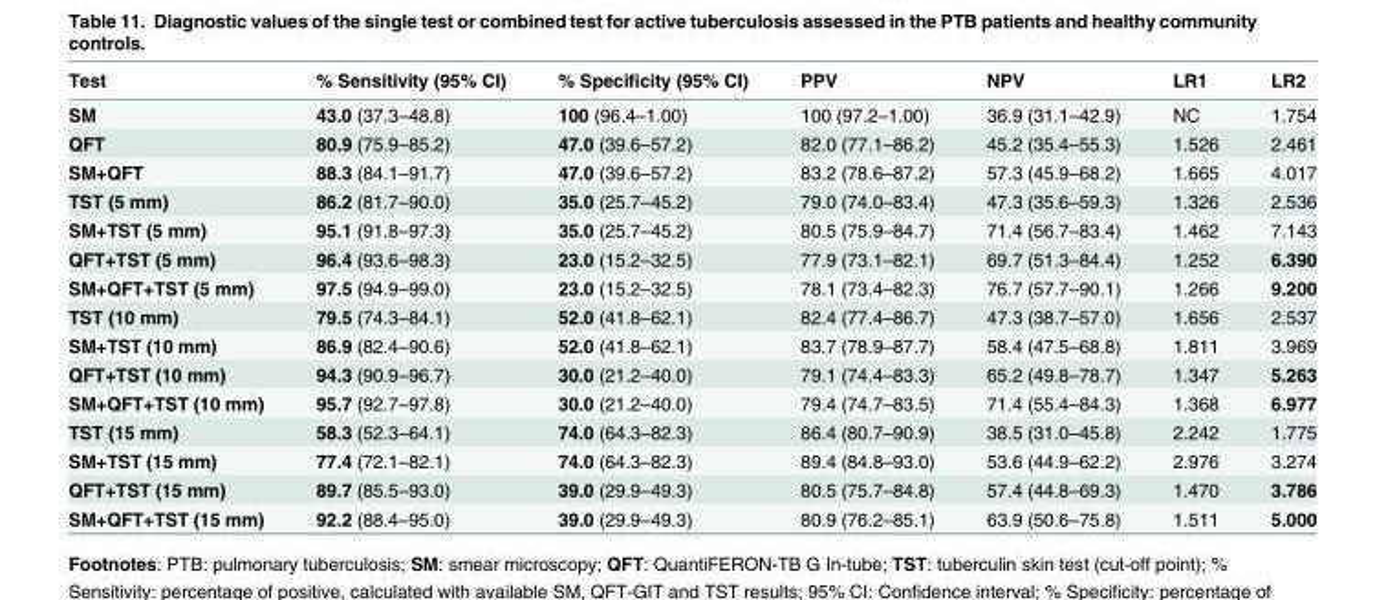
<table><thead><tr><td>Test</td><td>% Sensitivity (95% CI)</td><td>% Specificity (95% CI)</td><td>PPV</td><td>NPV</td><td>LR1</td><td>LR2</td></tr></thead><tbody><tr><td>SM</td><td>43.0 (37.3–48.8)</td><td>100 (96.4–1.00)</td><td>100 (97.2–1.00)</td><td>36.9 (31.1–42.9)</td><td>NC</td><td>1.754</td></tr><tr><td>QFT</td><td>80.9 (75.9–85.2)</td><td>47.0 (39.6–57.2)</td><td>82.0 (77.1–86.2)</td><td>45.2 (35.4–55.3)</td><td>1.526</td><td>2.461</td></tr><tr><td>SM+QFT</td><td>88.3 (84.1–91.7)</td><td>47.0 (39.6–57.2)</td><td>83.2 (78.6–87.2)</td><td>57.3 (45.9–68.2)</td><td>1.665</td><td>4.017</td></tr><tr><td>TST (5 mm)</td><td>86.2 (81.7–90.0)</td><td>35.0 (25.7–45.2)</td><td>79.0 (74.0–83.4)</td><td>47.3 (35.6–59.3)</td><td>1.326</td><td>2.536</td></tr><tr><td>SM+TST (5 mm)</td><td>95.1 (91.8–97.3)</td><td>35.0 (25.7–45.2)</td><td>80.5 (75.9–84.7)</td><td>71.4 (56.7–83.4)</td><td>1.462</td><td>7.143</td></tr><tr><td>QFT+TST (5 mm)</td><td>96.4 (93.6–98.3)</td><td>23.0 (15.2–32.5)</td><td>77.9 (73.1–82.1)</td><td>69.7 (51.3–84.4)</td><td>1.252</td><td>6.390</td></tr><tr><td>SM+QFT+TST (5 mm)</td><td>97.5 (94.9–99.0)</td><td>23.0 (15.2–32.5)</td><td>78.1 (73.4–82.3)</td><td>76.7 (57.7–90.1)</td><td>1.266</td><td>9.200</td></tr><tr><td>TST (10 mm)</td><td>79.5 (74.3–84.1)</td><td>52.0 (41.8–62.1)</td><td>82.4 (77.4–86.7)</td><td>47.3 (38.7–57.0)</td><td>1.656</td><td>2.537</td></tr><tr><td>SM+TST (10 mm)</td><td>86.9 (82.4–90.6)</td><td>52.0 (41.8–62.1)</td><td>83.7 (78.9–87.7)</td><td>58.4 (47.5–68.8)</td><td>1.811</td><td>3.969</td></tr><tr><td>QFT+TST (10 mm)</td><td>94.3 (90.9–96.7)</td><td>30.0 (21.2–40.0)</td><td>79.1 (74.4–83.3)</td><td>65.2 (49.8–78.7)</td><td>1.347</td><td>5.263</td></tr><tr><td>SM+QFT+TST (10 mm)</td><td>95.7 (92.7–97.8)</td><td>30.0 (21.2–40.0)</td><td>79.4 (74.7–83.5)</td><td>71.4 (55.4–84.3)</td><td>1.368</td><td>6.977</td></tr><tr><td>TST (15 mm)</td><td>58.3 (52.3–64.1)</td><td>74.0 (64.3–82.3)</td><td>86.4 (80.7–90.9)</td><td>38.5 (31.0–45.8)</td><td>2.242</td><td>1.775</td></tr><tr><td>SM+TST (15 mm)</td><td>77.4 (72.1–82.1)</td><td>74.0 (64.3–82.3)</td><td>89.4 (84.8–93.0)</td><td>53.6 (44.9–62.2)</td><td>2.976</td><td>3.274</td></tr><tr><td>QFT+TST (15 mm)</td><td>89.7 (85.5–93.0)</td><td>39.0 (29.9–49.3)</td><td>80.5 (75.7–84.8)</td><td>57.4 (44.8–69.3)</td><td>1.470</td><td>3.786</td></tr><tr><td>SM+QFT+TST (15 mm)</td><td>92.2 (88.4–95.0)</td><td>39.0 (29.9–49.3)</td><td>80.9 (76.2–85.1)</td><td>63.9 (50.6–75.8)</td><td>1.511</td><td>5.000</td></tr></tbody></table>